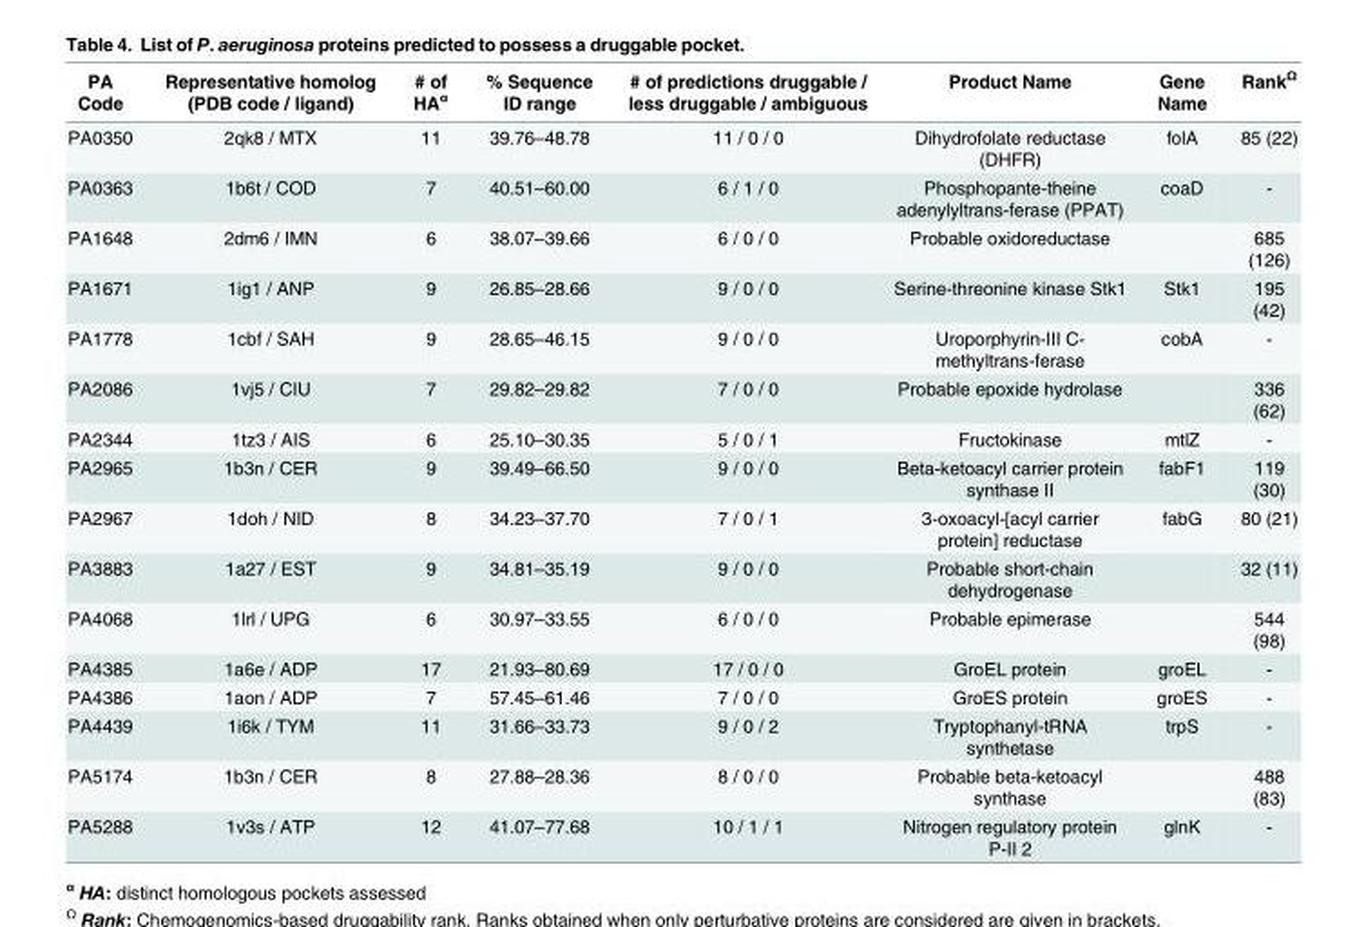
<table><thead><tr><td>PA Code</td><td>Representative homolog (PDB code / ligand)</td><td># of HA<sup>α</sup></td><td>% Sequence ID range</td><td># of predictions druggable / less druggable / ambiguous</td><td>Product Name</td><td>Gene Name</td><td>Rank<sup>Ω</sup></td></tr></thead><tbody><tr><td>PA0350</td><td>2qk8 / MTX</td><td>11</td><td>39.76–48.78</td><td>11 / 0 / 0</td><td>Dihydrofolate reductase (DHFR)</td><td>folA</td><td>85 (22)</td></tr><tr><td>PA0363</td><td>1b6t / COD</td><td>7</td><td>40.51–60.00</td><td>6 / 1 / 0</td><td>Phosphopante-theine adenylyltrans-ferase (PPAT)</td><td>coaD</td><td>-</td></tr><tr><td>PA1648</td><td>2dm6 / IMN</td><td>6</td><td>38.07–39.66</td><td>6 / 0 / 0</td><td>Probable oxidoreductase</td><td></td><td>685 (126)</td></tr><tr><td>PA1671</td><td>1ig1 / ANP</td><td>9</td><td>26.85–28.66</td><td>9 / 0 / 0</td><td>Serine-threonine kinase Stk1</td><td>Stk1</td><td>195 (42)</td></tr><tr><td>PA1778</td><td>1cbf / SAH</td><td>9</td><td>28.65–46.15</td><td>9 / 0 / 0</td><td>Uroporphyrin-III C- methyltrans-ferase</td><td>cobA</td><td>-</td></tr><tr><td>PA2086</td><td>1vj5 / CIU</td><td>7</td><td>29.82–29.82</td><td>7 / 0 / 0</td><td>Probable epoxide hydrolase</td><td></td><td>336 (62)</td></tr><tr><td>PA2344</td><td>1tz3 / AIS</td><td>6</td><td>25.10–30.35</td><td>5 / 0 / 1</td><td>Fructokinase</td><td>mtlZ</td><td>-</td></tr><tr><td>PA2965</td><td>1b3n / CER</td><td>9</td><td>39.49–66.50</td><td>9 / 0 / 0</td><td>Beta-ketoacyl carrier protein synthase II</td><td>fabF1</td><td>119 (30)</td></tr><tr><td>PA2967</td><td>1doh / NID</td><td>8</td><td>34.23–37.70</td><td>7 / 0 / 1</td><td>3-oxoacyl-[acyl carrier protein] reductase</td><td>fabG</td><td>80 (21)</td></tr><tr><td>PA3883</td><td>1a27 / EST</td><td>9</td><td>34.81–35.19</td><td>9 / 0 / 0</td><td>Probable short-chain dehydrogenase</td><td></td><td>32 (11)</td></tr><tr><td>PA4068</td><td>1lrl / UPG</td><td>6</td><td>30.97–33.55</td><td>6 / 0 / 0</td><td>Probable epimerase</td><td></td><td>544 (98)</td></tr><tr><td>PA4385</td><td>1a6e / ADP</td><td>17</td><td>21.93–80.69</td><td>17 / 0 / 0</td><td>GroEL protein</td><td>groEL</td><td>-</td></tr><tr><td>PA4386</td><td>1aon / ADP</td><td>7</td><td>57.45–61.46</td><td>7 / 0 / 0</td><td>GroES protein</td><td>groES</td><td>-</td></tr><tr><td>PA4439</td><td>1i6k / TYM</td><td>11</td><td>31.66–33.73</td><td>9 / 0 / 2</td><td>Tryptophanyl-tRNA synthetase</td><td>trpS</td><td>-</td></tr><tr><td>PA5174</td><td>1b3n / CER</td><td>8</td><td>27.88–28.36</td><td>8 / 0 / 0</td><td>Probable beta-ketoacyl synthase</td><td></td><td>488 (83)</td></tr><tr><td>PA5288</td><td>1v3s / ATP</td><td>12</td><td>41.07–77.68</td><td>10 / 1 / 1</td><td>Nitrogen regulatory protein P-II 2</td><td>glnK</td><td>-</td></tr></tbody></table>